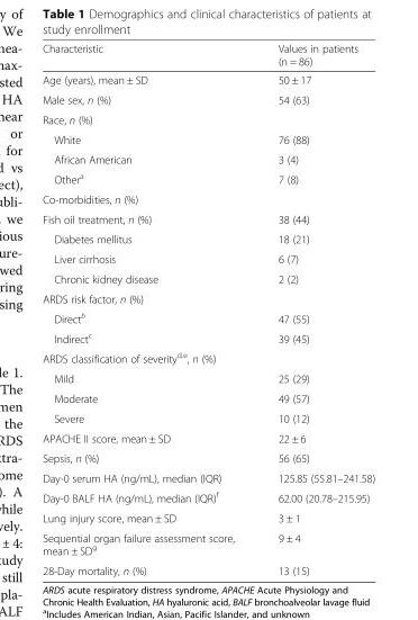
<table><thead><tr><td>Characteristic</td><td>Values in patients (n = 86)</td></tr></thead><tbody><tr><td>Age (years), mean ± SD</td><td>50 ± 17</td></tr><tr><td>Male sex, n (%)</td><td>54 (63)</td></tr><tr><td colspan="2">Race, n (%)</td></tr><tr><td>White</td><td>76 (88)</td></tr><tr><td>African American</td><td>3 (4)</td></tr><tr><td>Other<sup>a</sup></td><td>7 (8)</td></tr><tr><td colspan="2">Co-morbidities, n (%)</td></tr><tr><td>Fish oil treatment, n (%)</td><td>38 (44)</td></tr><tr><td>Diabetes mellitus</td><td>18 (21)</td></tr><tr><td>Liver cirrhosis</td><td>6 (7)</td></tr><tr><td>Chronic kidney disease</td><td>2 (2)</td></tr><tr><td colspan="2">ARDS risk factor, n (%)</td></tr><tr><td>Direct<sup>b</sup></td><td>47 (55)</td></tr><tr><td>Indirect<sup>c</sup></td><td>39 (45)</td></tr><tr><td colspan="2">ARDS classification of severity<sup>d,e</sup>, n (%)</td></tr><tr><td>Mild</td><td>25 (29)</td></tr><tr><td>Moderate</td><td>49 (57)</td></tr><tr><td>Severe</td><td>10 (12)</td></tr><tr><td>APACHE II score, mean ± SD</td><td>22 ± 6</td></tr><tr><td>Sepsis, n (%)</td><td>56 (65)</td></tr><tr><td>Day-0 serum HA (ng/mL), median (IQR)</td><td>125.85 (55.81–241.58)</td></tr><tr><td>Day-0 BALF HA (ng/mL), median (IQR)<sup>f</sup></td><td>62.00 (20.78–215.95)</td></tr><tr><td>Lung injury score, mean ± SD</td><td>3 ± 1</td></tr><tr><td>Sequential organ failure assessment score, mean ± SD<sup>g</sup></td><td>9 ± 4</td></tr><tr><td>28-Day mortality, n (%)</td><td>13 (15)</td></tr></tbody></table>